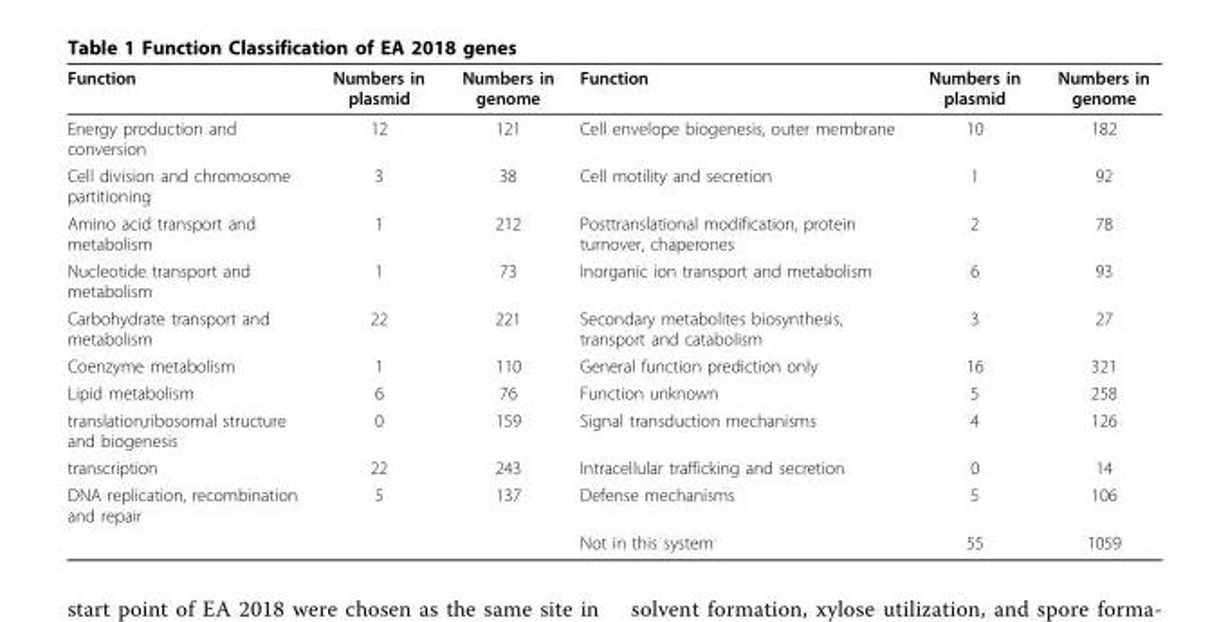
<table><thead><tr><td>Function</td><td>Numbers in plasmid</td><td>Numbers in genome</td><td>Function</td><td>Numbers in plasmid</td><td>Numbers in genome</td></tr></thead><tbody><tr><td>Energy production and conversion</td><td>12</td><td>121</td><td>Cell envelope biogenesis, outer membrane</td><td>10</td><td>182</td></tr><tr><td>Cell division and chromosome partitioning</td><td>3</td><td>38</td><td>Cell motility and secretion</td><td>1</td><td>92</td></tr><tr><td>Amino acid transport and metabolism</td><td>1</td><td>212</td><td>Posttranslational modification, protein turnover, chaperones</td><td>2</td><td>78</td></tr><tr><td>Nucleotide transport and metabolism</td><td>1</td><td>73</td><td>Inorganic ion transport and metabolism</td><td>6</td><td>93</td></tr><tr><td>Carbohydrate transport and metabolism</td><td>22</td><td>221</td><td>Secondary metabolites biosynthesis, transport and catabolism</td><td>3</td><td>27</td></tr><tr><td>Coenzyme metabolism</td><td>1</td><td>110</td><td>General function prediction only</td><td>16</td><td>321</td></tr><tr><td>Lipid metabolism</td><td>6</td><td>76</td><td>Function unknown</td><td>5</td><td>258</td></tr><tr><td>translation,ribosomal structure and biogenesis</td><td>0</td><td>159</td><td>Signal transduction mechanisms</td><td>4</td><td>126</td></tr><tr><td>transcription</td><td>22</td><td>243</td><td>Intracellular trafficking and secretion</td><td>0</td><td>14</td></tr><tr><td rowspan="2">DNA replication, recombination and repair</td><td>5</td><td>137</td><td>Defense mechanisms</td><td>5</td><td>106</td></tr><tr><td></td><td></td><td>Not in this system</td><td>55</td><td>1059</td></tr></tbody></table>